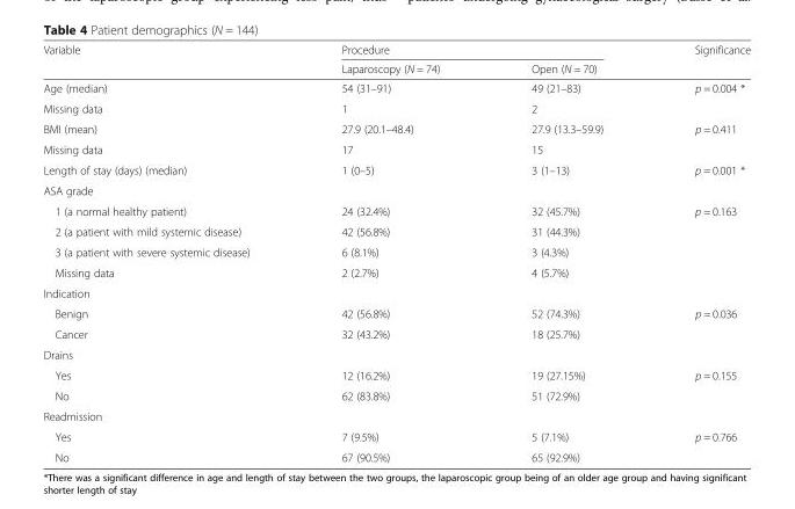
<table><thead><tr><td rowspan="2">Variable</td><td colspan="2">Procedure</td><td rowspan="2">Significance</td></tr><tr><td>Laparoscopy (N = 74)</td><td>Open (N = 70)</td></tr></thead><tbody><tr><td>Age (median)</td><td>54 (31–91)</td><td>49 (21–83)</td><td rowspan="2">p = 0.004 *</td></tr><tr><td>Missing data</td><td>1</td><td>2</td></tr><tr><td>BMI (mean)</td><td>27.9 (20.1–48.4)</td><td>27.9 (13.3–59.9)</td><td rowspan="2">p = 0.411</td></tr><tr><td>Missing data</td><td>17</td><td>15</td></tr><tr><td>Length of stay (days) (median)</td><td>1 (0–5)</td><td>3 (1–13)</td><td>p = 0.001 *</td></tr><tr><td colspan="4">ASA grade</td></tr><tr><td>1 (a normal healthy patient)</td><td>24 (32.4%)</td><td>32 (45.7%)</td><td rowspan="4">p = 0.163</td></tr><tr><td>2 (a patient with mild systemic disease)</td><td>42 (56.8%)</td><td>31 (44.3%)</td></tr><tr><td>3 (a patient with severe systemic disease)</td><td>6 (8.1%)</td><td>3 (4.3%)</td></tr><tr><td>Missing data</td><td>2 (2.7%)</td><td>4 (5.7%)</td></tr><tr><td colspan="4">Indication</td></tr><tr><td>Benign</td><td>42 (56.8%)</td><td>52 (74.3%)</td><td rowspan="2">p = 0.036</td></tr><tr><td>Cancer</td><td>32 (43.2%)</td><td>18 (25.7%)</td></tr><tr><td colspan="4">Drains</td></tr><tr><td>Yes</td><td>12 (16.2%)</td><td>19 (27.15%)</td><td rowspan="2">p = 0.155</td></tr><tr><td>No</td><td>62 (83.8%)</td><td>51 (72.9%)</td></tr><tr><td colspan="4">Readmission</td></tr><tr><td>Yes</td><td>7 (9.5%)</td><td>5 (7.1%)</td><td rowspan="2">p = 0.766</td></tr><tr><td>No</td><td>67 (90.5%)</td><td>65 (92.9%)</td></tr></tbody></table>